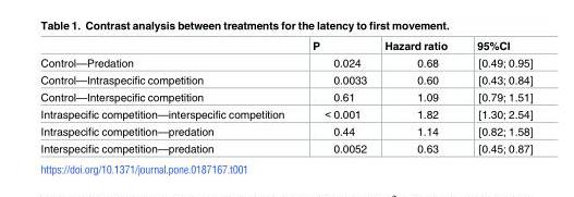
<table><thead><tr><td></td><td>P</td><td>Hazard ratio</td><td>95%CI</td></tr></thead><tbody><tr><td>Control—Predation</td><td>0.024</td><td>0.68</td><td>[0.49; 0.95]</td></tr><tr><td>Control—Intraspecific competition</td><td>0.0033</td><td>0.60</td><td>[0.43; 0.84]</td></tr><tr><td>Control—Interspecific competition</td><td>0.61</td><td>1.09</td><td>[0.79; 1.51]</td></tr><tr><td>Intraspecific competition—interspecific competition</td><td>&lt; 0.001</td><td>1.82</td><td>[1.30; 2.54]</td></tr><tr><td>Intraspecific competition—predation</td><td>0.44</td><td>1.14</td><td>[0.82; 1.58]</td></tr><tr><td>Interspecific competition—predation</td><td>0.0052</td><td>0.63</td><td>[0.45; 0.87]</td></tr></tbody></table>